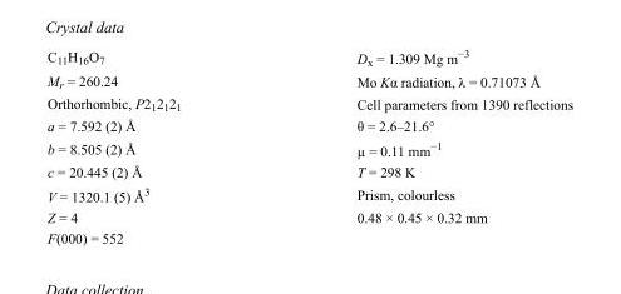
<table><tbody><tr><td>C<sub>11</sub>H<sub>16</sub>O<sub>7</sub></td><td>D<sub>x</sub> = 1.309 Mg m<sup>−3</sup></td></tr><tr><td>M<sub>r</sub> = 260.24</td><td>Mo Kα radiation, λ = 0.71073 Å</td></tr><tr><td>Orthorhombic, P2<sub>1</sub>2<sub>1</sub>2<sub>1</sub></td><td>Cell parameters from 1390 reflections</td></tr><tr><td>a = 7.592 (2) Å</td><td>θ = 2.6–21.6°</td></tr><tr><td>b = 8.505 (2) Å</td><td>µ = 0.11 mm<sup>−1</sup></td></tr><tr><td>c = 20.445 (2) Å</td><td>T = 298 K</td></tr><tr><td>V = 1320.1 (5) Å<sup>3</sup></td><td>Prism, colourless</td></tr><tr><td>Z = 4</td><td>0.48 × 0.45 × 0.32 mm</td></tr><tr><td>F(000) = 552</td><td></td></tr></tbody></table>